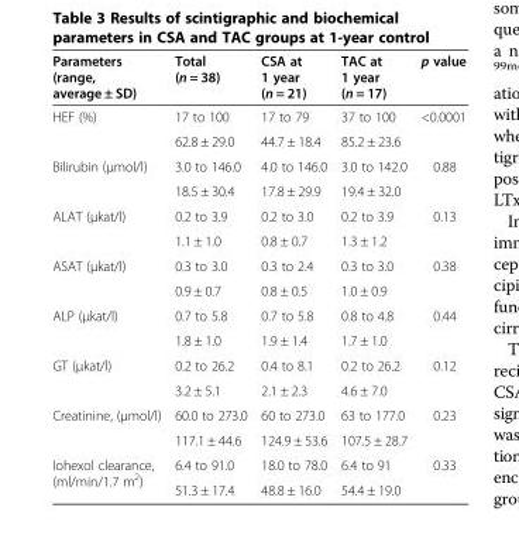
<table><thead><tr><td>Parameters (range, average ± SD)</td><td>Total (n = 38)</td><td>CSA at 1 year (n = 21)</td><td>TAC at 1 year (n = 17)</td><td>p value</td></tr></thead><tbody><tr><td rowspan="2">HEF (%)</td><td>17 to 100</td><td>17 to 79</td><td>37 to 100</td><td rowspan="2">&lt;0.0001</td></tr><tr><td>62.8 ± 29.0</td><td>44.7 ± 18.4</td><td>85.2 ± 23.6</td></tr><tr><td rowspan="2">Bilirubin (μmol/l)</td><td>3.0 to 146.0</td><td>4.0 to 146.0</td><td>3.0 to 142.0</td><td rowspan="2">0.88</td></tr><tr><td>18.5 ± 30.4</td><td>17.8 ± 29.9</td><td>19.4 ± 32.0</td></tr><tr><td rowspan="2">ALAT (μkat/l)</td><td>0.2 to 3.9</td><td>0.2 to 3.0</td><td>0.2 to 3.9</td><td rowspan="2">0.13</td></tr><tr><td>1.1 ± 1.0</td><td>0.8 ± 0.7</td><td>1.3 ± 1.2</td></tr><tr><td rowspan="2">ASAT (μkat/l)</td><td>0.3 to 3.0</td><td>0.3 to 2.4</td><td>0.3 to 3.0</td><td rowspan="2">0.38</td></tr><tr><td>0.9 ± 0.7</td><td>0.8 ± 0.5</td><td>1.0 ± 0.9</td></tr><tr><td rowspan="2">ALP (μkat/l)</td><td>0.7 to 5.8</td><td>0.7 to 5.8</td><td>0.8 to 4.8</td><td rowspan="2">0.44</td></tr><tr><td>1.8 ± 1.0</td><td>1.9 ± 1.4</td><td>1.7 ± 1.0</td></tr><tr><td rowspan="2">GT (μkat/l)</td><td>0.2 to 26.2</td><td>0.4 to 8.1</td><td>0.2 to 26.2</td><td rowspan="2">0.12</td></tr><tr><td>3.2 ± 5.1</td><td>2.1 ± 2.3</td><td>4.6 ± 7.0</td></tr><tr><td rowspan="2">Creatinine, (μmol/l)</td><td>60.0 to 273.0</td><td>60 to 273.0</td><td>63 to 177.0</td><td rowspan="2">0.23</td></tr><tr><td>117.1 ± 44.6</td><td>124.9 ± 53.6</td><td>107.5 ± 28.7</td></tr><tr><td rowspan="2">Iohexol clearance, (ml/min/1.7 m<sup>2</sup>)</td><td>6.4 to 91.0</td><td>18.0 to 78.0</td><td>6.4 to 91</td><td rowspan="2">0.33</td></tr><tr><td>51.3 ± 17.4</td><td>48.8 ± 16.0</td><td>54.4 ± 19.0</td></tr></tbody></table>